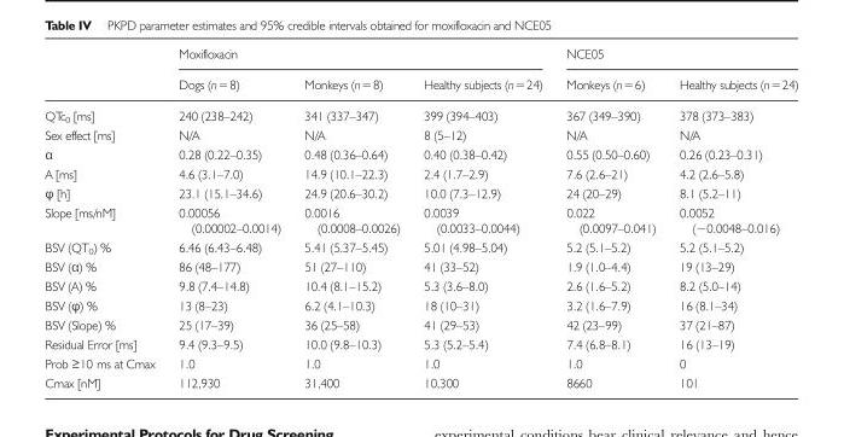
<table><thead><tr><td rowspan="2"></td><td colspan="3">Moxifloxacin</td><td colspan="2">NCE05</td></tr><tr><td>Dogs (n=8)</td><td>Monkeys (n=8)</td><td>Healthy subjects (n=24)</td><td>Monkeys (n=6)</td><td>Healthy subjects (n=24)</td></tr></thead><tbody><tr><td>QTc<sub>0</sub> [ms]</td><td>240 (238–242)</td><td>341 (337–347)</td><td>399 (394–403)</td><td>367 (349–390)</td><td>378 (373–383)</td></tr><tr><td>Sex effect [ms]</td><td>N/A</td><td>N/A</td><td>8 (5–12)</td><td>N/A</td><td>N/A</td></tr><tr><td>α</td><td>0.28 (0.22–0.35)</td><td>0.48 (0.36–0.64)</td><td>0.40 (0.38–0.42)</td><td>0.55 (0.50–0.60)</td><td>0.26 (0.23–0.31)</td></tr><tr><td>A [ms]</td><td>4.6 (3.1–7.0)</td><td>14.9 (10.1–22.3)</td><td>2.4 (1.7–2.9)</td><td>7.6 (2.6–21)</td><td>4.2 (2.6–5.8)</td></tr><tr><td>φ [h]</td><td>23.1 (15.1–34.6)</td><td>24.9 (20.6–30.2)</td><td>10.0 (7.3–12.9)</td><td>24 (20–29)</td><td>8.1 (5.2–11)</td></tr><tr><td>Slope [ms/nM]</td><td>0.00056 (0.00002–0.0014)</td><td>0.0016 (0.0008–0.0026)</td><td>0.0039 (0.0033–0.0044)</td><td>0.022 (0.0097–0.041)</td><td>0.0052 (−0.0048–0.016)</td></tr><tr><td>BSV (QT<sub>0</sub>) %</td><td>6.46 (6.43–6.48)</td><td>5.41 (5.37–5.45)</td><td>5.01 (4.98–5.04)</td><td>5.2 (5.1–5.2)</td><td>5.2 (5.1–5.2)</td></tr><tr><td>BSV (α) %</td><td>86 (48–177)</td><td>51 (27–110)</td><td>41 (33–52)</td><td>1.9 (1.0–4.4)</td><td>19 (13–29)</td></tr><tr><td>BSV (A) %</td><td>9.8 (7.4–14.8)</td><td>10.4 (8.1–15.2)</td><td>5.3 (3.6–8.0)</td><td>2.6 (1.6–5.2)</td><td>8.2 (5.0–14)</td></tr><tr><td>BSV (φ) %</td><td>13 (8–23)</td><td>6.2 (4.1–10.3)</td><td>18 (10–31)</td><td>3.2 (1.6–7.9)</td><td>16 (8.1–34)</td></tr><tr><td>BSV (Slope) %</td><td>25 (17–39)</td><td>36 (25–58)</td><td>41 (29–53)</td><td>42 (23–99)</td><td>37 (21–87)</td></tr><tr><td>Residual Error [ms]</td><td>9.4 (9.3–9.5)</td><td>10.0 (9.8–10.3)</td><td>5.3 (5.2–5.4)</td><td>7.4 (6.8–8.1)</td><td>16 (13–19)</td></tr><tr><td>Prob ≥10 ms at Cmax</td><td>1.0</td><td>1.0</td><td>1.0</td><td>1.0</td><td>0</td></tr><tr><td>Cmax [nM]</td><td>112,930</td><td>31,400</td><td>10,300</td><td>8660</td><td>101</td></tr></tbody></table>